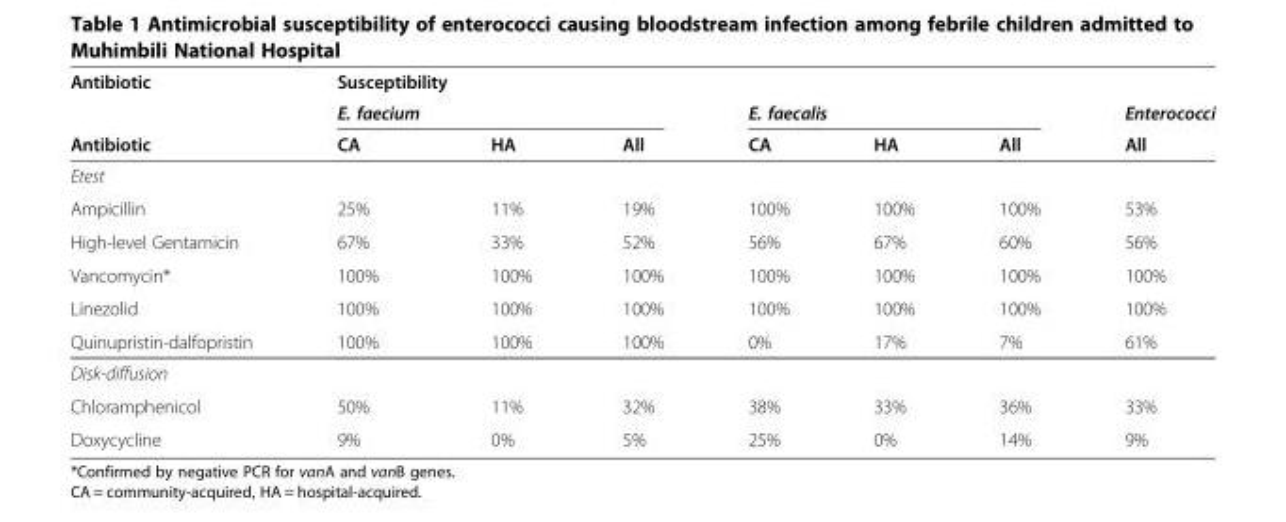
<table><thead><tr><td rowspan="3">Antibiotic Antibiotic</td><td>Susceptibility</td><td></td><td></td><td></td><td></td><td></td><td rowspan="3">Enterococci All</td></tr><tr><td colspan="3">E. faecium</td><td colspan="3">E. faecalis</td></tr><tr><td>CA</td><td>HA</td><td>All</td><td>CA</td><td>HA</td><td>All</td></tr></thead><tbody><tr><td colspan="8">Etest</td></tr><tr><td>Ampicillin</td><td>25%</td><td>11%</td><td>19%</td><td>100%</td><td>100%</td><td>100%</td><td>53%</td></tr><tr><td>High-level Gentamicin</td><td>67%</td><td>33%</td><td>52%</td><td>56%</td><td>67%</td><td>60%</td><td>56%</td></tr><tr><td>Vancomycin*</td><td>100%</td><td>100%</td><td>100%</td><td>100%</td><td>100%</td><td>100%</td><td>100%</td></tr><tr><td>Linezolid</td><td>100%</td><td>100%</td><td>100%</td><td>100%</td><td>100%</td><td>100%</td><td>100%</td></tr><tr><td>Quinupristin-dalfopristin</td><td>100%</td><td>100%</td><td>100%</td><td>0%</td><td>17%</td><td>7%</td><td>61%</td></tr><tr><td colspan="8">Disk-diffusion</td></tr><tr><td>Chloramphenicol</td><td>50%</td><td>11%</td><td>32%</td><td>38%</td><td>33%</td><td>36%</td><td>33%</td></tr><tr><td>Doxycycline</td><td>9%</td><td>0%</td><td>5%</td><td>25%</td><td>0%</td><td>14%</td><td>9%</td></tr></tbody></table>